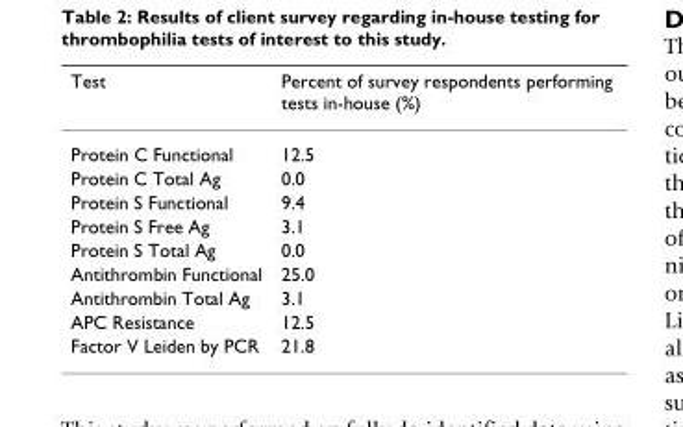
<table><thead><tr><td>Test</td><td>Percent of survey respondents performing tests in-house (%)</td></tr></thead><tbody><tr><td>Protein C Functional</td><td>12.5</td></tr><tr><td>Protein C Total Ag</td><td>0.0</td></tr><tr><td>Protein S Functional</td><td>9.4</td></tr><tr><td>Protein S Free Ag</td><td>3.1</td></tr><tr><td>Protein S Total Ag</td><td>0.0</td></tr><tr><td>Antithrombin Functional</td><td>25.0</td></tr><tr><td>Antithrombin Total Ag</td><td>3.1</td></tr><tr><td>APC Resistance</td><td>12.5</td></tr><tr><td>Factor V Leiden by PCR</td><td>21.8</td></tr></tbody></table>